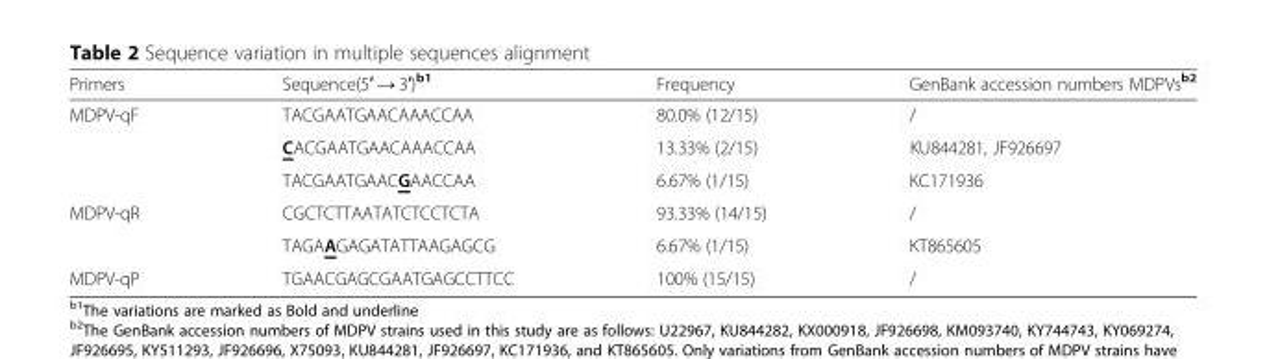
<table><thead><tr><td>Primers</td><td>Sequence(5′ → 3′)<sup>b1</sup></td><td>Frequency</td><td>GenBank accession numbers MDPVs<sup>b2</sup></td></tr></thead><tbody><tr><td rowspan="3">MDPV-qF</td><td>TACGAATGAACAAACCAA</td><td>80.0% (12/15)</td><td>/</td></tr><tr><td>CACGAATGAACAAACCAA</td><td>13.33% (2/15)</td><td>KU844281, JF926697</td></tr><tr><td>TACGAATGAACGAACCAA</td><td>6.67% (1/15)</td><td>KC171936</td></tr><tr><td rowspan="2">MDPV-qR</td><td>CGCTCTTAATATCTCCTCTA</td><td>93.33% (14/15)</td><td>/</td></tr><tr><td>TAGAAGAGATATTAAGAGCG</td><td>6.67% (1/15)</td><td>KT865605</td></tr><tr><td>MDPV-qP</td><td>TGAACGAGCGAATGAGCCTTCC</td><td>100% (15/15)</td><td>/</td></tr></tbody></table>